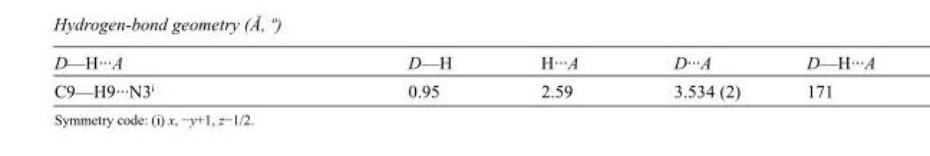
<table><tbody><tr><td>D—H···A</td><td>D—H</td><td>H···A</td><td>D···A</td><td>D—H···A</td></tr><tr><td>C9—H9···N3<sup>i</sup></td><td>0.95</td><td>2.59</td><td>3.534 (2)</td><td>171</td></tr></tbody></table>